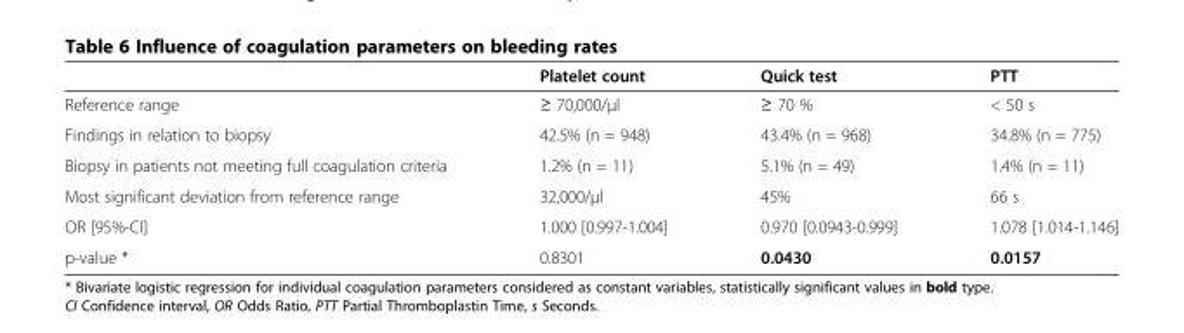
<table><thead><tr><td></td><td>Platelet count</td><td>Quick test</td><td>PTT</td></tr></thead><tbody><tr><td>Reference range</td><td>≥ 70,000/μl</td><td>≥ 70 %</td><td>&lt; 50 s</td></tr><tr><td>Findings in relation to biopsy</td><td>42.5% (n = 948)</td><td>43.4% (n = 968)</td><td>34.8% (n = 775)</td></tr><tr><td>Biopsy in patients not meeting full coagulation criteria</td><td>1.2% (n = 11)</td><td>5.1% (n = 49)</td><td>1.4% (n = 11)</td></tr><tr><td>Most significant deviation from reference range</td><td>32,000/μl</td><td>45%</td><td>66 s</td></tr><tr><td>OR [95%-CI]</td><td>1.000 [0.997-1.004]</td><td>0.970 [0.0943-0.999]</td><td>1.078 [1.014-1.146]</td></tr><tr><td>p-value *</td><td>0.8301</td><td>0.0430</td><td>0.0157</td></tr></tbody></table>